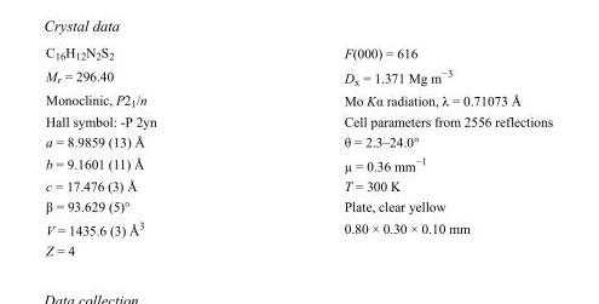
<table><tbody><tr><td>C<sub>16</sub>H<sub>12</sub>N<sub>2</sub>S<sub>2</sub></td><td>F(000) = 616</td></tr><tr><td>M<sub>r</sub> = 296.40</td><td>D<sub>x</sub> = 1.371 Mg m<sup>−3</sup></td></tr><tr><td>Monoclinic, P2<sub>1</sub>/n</td><td>Mo Kα radiation, λ = 0.71073 Å</td></tr><tr><td>Hall symbol: -P 2yn</td><td>Cell parameters from 2556 reflections</td></tr><tr><td>a = 8.9859 (13) Å</td><td>θ = 2.3–24.0°</td></tr><tr><td>b = 9.1601 (11) Å</td><td>µ = 0.36 mm<sup>−1</sup></td></tr><tr><td>c = 17.476 (3) Å</td><td>T = 300 K</td></tr><tr><td>β = 93.629 (5)°</td><td>Plate, clear yellow</td></tr><tr><td>V = 1435.6 (3) Å<sup>3</sup></td><td>0.80 × 0.30 × 0.10 mm</td></tr><tr><td>Z = 4</td><td></td></tr></tbody></table>